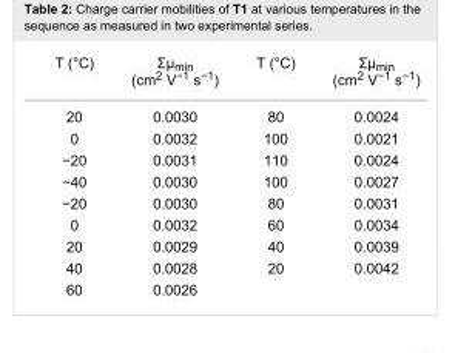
<table><tbody><tr><td>T (°C)</td><td>Σμ<sub>min</sub> (cm<sup>2</sup> V<sup>−1</sup> s<sup>−1</sup>)</td><td>T (°C)</td><td>Σμ<sub>min</sub> (cm<sup>2</sup> V<sup>−1</sup> s<sup>−1</sup>)</td></tr><tr><td>20</td><td>0.0030</td><td>80</td><td>0.0024</td></tr><tr><td>0</td><td>0.0032</td><td>100</td><td>0.0021</td></tr><tr><td>−20</td><td>0.0031</td><td>110</td><td>0.0024</td></tr><tr><td>−40</td><td>0.0030</td><td>100</td><td>0.0027</td></tr><tr><td>−20</td><td>0.0030</td><td>80</td><td>0.0031</td></tr><tr><td>0</td><td>0.0032</td><td>60</td><td>0.0034</td></tr><tr><td>20</td><td>0.0029</td><td>40</td><td>0.0039</td></tr><tr><td>40</td><td>0.0028</td><td>20</td><td>0.0042</td></tr><tr><td>60</td><td>0.0026</td><td></td><td></td></tr></tbody></table>